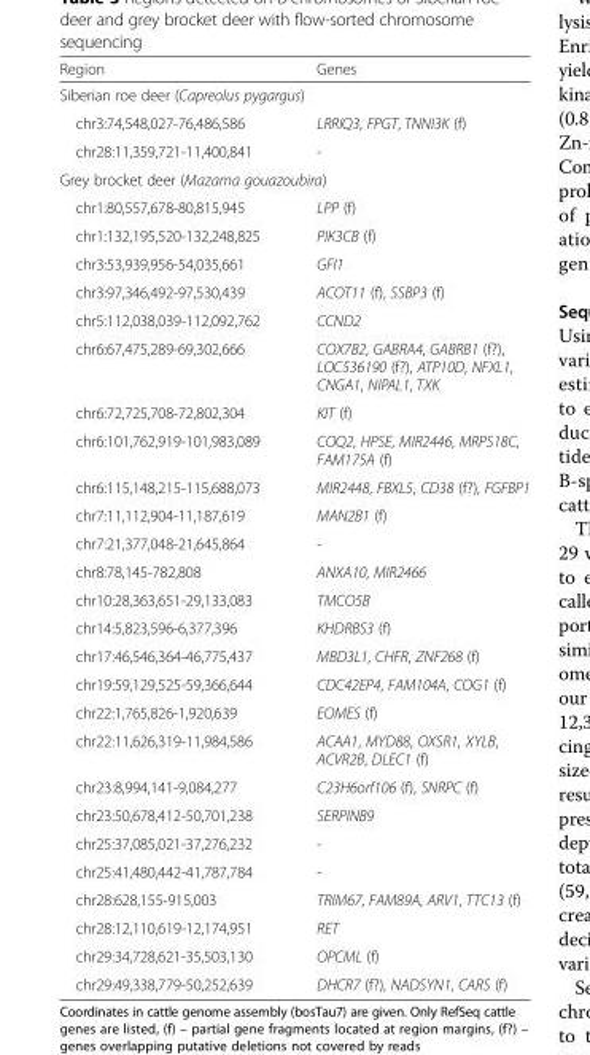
<table><thead><tr><td>Region</td><td>Genes</td></tr></thead><tbody><tr><td colspan="2">Siberian roe deer (Capreolus pygargus)</td></tr><tr><td>chr3:74,548,027-76,486,586</td><td>LRRIQ3, FPGT, TNNI3K (f)</td></tr><tr><td>chr28:11,359,721-11,400,841</td><td>-</td></tr><tr><td colspan="2">Grey brocket deer (Mazama gouazoubira)</td></tr><tr><td>chr1:80,557,678-80,815,945</td><td>LPP (f)</td></tr><tr><td>chr1:132,195,520-132,248,825</td><td>PIK3CB (f)</td></tr><tr><td>chr3:53,939,956-54,035,661</td><td>GFI1</td></tr><tr><td>chr3:97,346,492-97,530,439</td><td>ACOT11 (f), SSBP3 (f)</td></tr><tr><td>chr5:112,038,039-112,092,762</td><td>CCND2</td></tr><tr><td>chr6:67,475,289-69,302,666</td><td>COX7B2, GABRA4, GABRB1 (f?), LOC536190 (f?), ATP10D, NFXL1, CNGA1, NIPAL1, TXK</td></tr><tr><td>chr6:72,725,708-72,802,304</td><td>KIT (f)</td></tr><tr><td>chr6:101,762,919-101,983,089</td><td>COQ2, HPSE, MIR2446, MRPS18C, FAM175A (f)</td></tr><tr><td>chr6:115,148,215-115,688,073</td><td>MIR2448, FBXL5, CD38 (f?), FGFBP1</td></tr><tr><td>chr7:11,112,904-11,187,619</td><td>MAN2B1 (f)</td></tr><tr><td>chr7:21,377,048-21,645,864</td><td>-</td></tr><tr><td>chr8:78,145-782,808</td><td>ANXA10, MIR2466</td></tr><tr><td>chr10:28,363,651-29,133,083</td><td>TMCO5B</td></tr><tr><td>chr14:5,823,596-6,377,396</td><td>KHDRBS3 (f)</td></tr><tr><td>chr17:46,546,364-46,775,437</td><td>MBD3L1, CHFR, ZNF268 (f)</td></tr><tr><td>chr19:59,129,525-59,366,644</td><td>CDC42EP4, FAM104A, COG1 (f)</td></tr><tr><td>chr22:1,765,826-1,920,639</td><td>EOMES (f)</td></tr><tr><td>chr22:11,626,319-11,984,586</td><td>ACAA1, MYD88, OXSR1, XYLB, ACVR2B, DLEC1 (f)</td></tr><tr><td>chr23:8,994,141-9,084,277</td><td>C23H6orf106 (f), SNRPC (f)</td></tr><tr><td>chr23:50,678,412-50,701,238</td><td>SERPINB9</td></tr><tr><td>chr25:37,085,021-37,276,232</td><td>-</td></tr><tr><td>chr25:41,480,442-41,787,784</td><td>-</td></tr><tr><td>chr28:628,155-915,003</td><td>TRIM67, FAM89A, ARV1, TTC13 (f)</td></tr><tr><td>chr28:12,110,619-12,174,951</td><td>RET</td></tr><tr><td>chr29:34,728,621-35,503,130</td><td>OPCML (f)</td></tr><tr><td>chr29:49,338,779-50,252,639</td><td>DHCR7 (f?), NADSYN1, CARS (f)</td></tr></tbody></table>